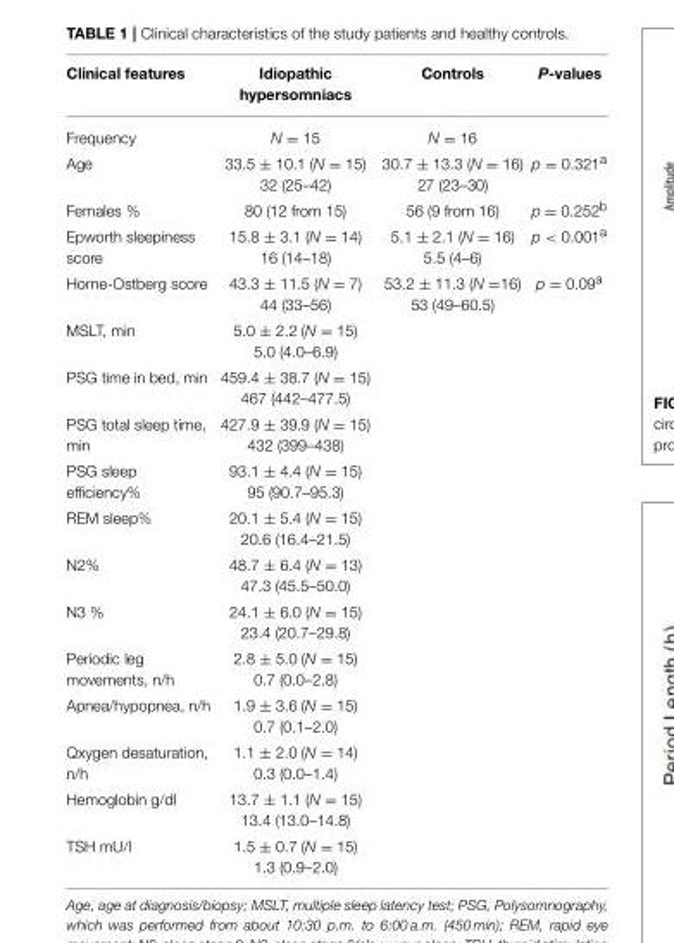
<table><thead><tr><td>Clinical features</td><td>Idiopathic hypersomniacs</td><td>Controls</td><td>P-values</td></tr></thead><tbody><tr><td>Frequency</td><td>N = 15</td><td>N = 16</td><td></td></tr><tr><td>Age</td><td>33.5 ± 10.1 (N = 15) 32 (25–42)</td><td>30.7 ± 13.3 (N = 16) 27 (23–30)</td><td>p = 0.321<sup>a</sup></td></tr><tr><td>Females %</td><td>80 (12 from 15)</td><td>56 (9 from 16)</td><td>p = 0.252<sup>b</sup></td></tr><tr><td>Epworth sleepiness score</td><td>15.8 ± 3.1 (N = 14) 16 (14–18)</td><td>5.1 ± 2.1 (N = 16) 5.5 (4–6)</td><td>p &lt; 0.001<sup>a</sup></td></tr><tr><td>Horne-Ostberg score</td><td>43.3 ± 11.5 (N = 7) 44 (33–56)</td><td>53.2 ± 11.3 (N =16) 53 (49–60.5)</td><td>p = 0.09<sup>a</sup></td></tr><tr><td>MSLT, min</td><td>5.0 ± 2.2 (N = 15) 5.0 (4.0–6.9)</td><td></td><td></td></tr><tr><td>PSG time in bed, min</td><td>459.4 ± 38.7 (N = 15) 467 (442–477.5)</td><td></td><td></td></tr><tr><td>PSG total sleep time, min</td><td>427.9 ± 39.9 (N = 15) 432 (399–438)</td><td></td><td></td></tr><tr><td>PSG sleep efficiency%</td><td>93.1 ± 4.4 (N = 15) 95 (90.7–95.3)</td><td></td><td></td></tr><tr><td>REM sleep%</td><td>20.1 ± 5.4 (N = 15) 20.6 (16.4–21.5)</td><td></td><td></td></tr><tr><td>N2%</td><td>48.7 ± 6.4 (N = 13) 47.3 (45.5–50.0)</td><td></td><td></td></tr><tr><td>N3 %</td><td>24.1 ± 6.0 (N = 15) 23.4 (20.7–29.8)</td><td></td><td></td></tr><tr><td>Periodic leg movements, n/h</td><td>2.8 ± 5.0 (N = 15) 0.7 (0.0–2.8)</td><td></td><td></td></tr><tr><td>Apnea/hypopnea, n/h</td><td>1.9 ± 3.6 (N = 15) 0.7 (0.1–2.0)</td><td></td><td></td></tr><tr><td>Qxygen desaturation, n/h</td><td>1.1 ± 2.0 (N = 14) 0.3 (0.0–1.4)</td><td></td><td></td></tr><tr><td>Hemoglobin g/dl</td><td>13.7 ± 1.1 (N = 15) 13.4 (13.0–14.8)</td><td></td><td></td></tr><tr><td>TSH mU/l</td><td>1.5 ± 0.7 (N = 15) 1.3 (0.9–2.0)</td><td></td><td></td></tr></tbody></table>